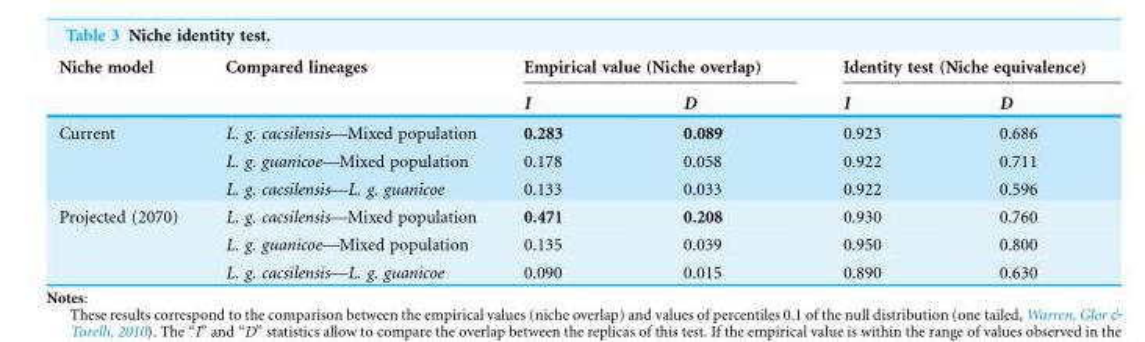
<table><thead><tr><td rowspan="2">Niche model</td><td rowspan="2">Compared lineages</td><td colspan="2">Empirical value (Niche overlap)</td><td colspan="2">Identity test (Niche equivalence)</td></tr><tr><td>I</td><td>D</td><td>I</td><td>D</td></tr></thead><tbody><tr><td rowspan="3">Current</td><td>L. g. cacsilensis—Mixed population</td><td>0.283</td><td>0.089</td><td>0.923</td><td>0.686</td></tr><tr><td>L. g. guanicoe—Mixed population</td><td>0.178</td><td>0.058</td><td>0.922</td><td>0.711</td></tr><tr><td>L. g. cacsilensis—L. g. guanicoe</td><td>0.133</td><td>0.033</td><td>0.922</td><td>0.596</td></tr><tr><td rowspan="3">Projected (2070)</td><td>L. g. cacsilensis—Mixed population</td><td>0.471</td><td>0.208</td><td>0.930</td><td>0.760</td></tr><tr><td>L. g. guanicoe—Mixed population</td><td>0.135</td><td>0.039</td><td>0.950</td><td>0.800</td></tr><tr><td>L. g. cacsilensis—L. g. guanicoe</td><td>0.090</td><td>0.015</td><td>0.890</td><td>0.630</td></tr></tbody></table>